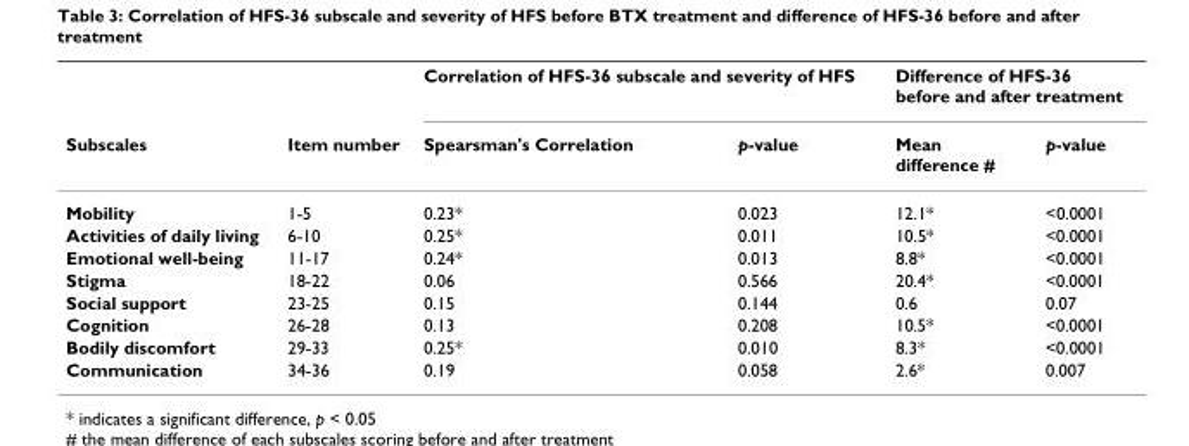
<table><thead><tr><td rowspan="2">Subscales</td><td rowspan="2">Item number</td><td colspan="2">Correlation of HFS-36 subscale and severity of HFS</td><td colspan="2">Difference of HFS-36 before and after treatment</td></tr><tr><td>Spearsman&#x27;s Correlation</td><td>p-value</td><td>Mean difference #</td><td>p-value</td></tr></thead><tbody><tr><td>Mobility</td><td>1-5</td><td>0.23*</td><td>0.023</td><td>12.1*</td><td>&lt;0.0001</td></tr><tr><td>Activities of daily living</td><td>6-10</td><td>0.25*</td><td>0.011</td><td>10.5*</td><td>&lt;0.0001</td></tr><tr><td>Emotional well-being</td><td>11-17</td><td>0.24*</td><td>0.013</td><td>8.8*</td><td>&lt;0.0001</td></tr><tr><td>Stigma</td><td>18-22</td><td>0.06</td><td>0.566</td><td>20.4*</td><td>&lt;0.0001</td></tr><tr><td>Social support</td><td>23-25</td><td>0.15</td><td>0.144</td><td>0.6</td><td>0.07</td></tr><tr><td>Cognition</td><td>26-28</td><td>0.13</td><td>0.208</td><td>10.5*</td><td>&lt;0.0001</td></tr><tr><td>Bodily discomfort</td><td>29-33</td><td>0.25*</td><td>0.010</td><td>8.3*</td><td>&lt;0.0001</td></tr><tr><td>Communication</td><td>34-36</td><td>0.19</td><td>0.058</td><td>2.6*</td><td>0.007</td></tr></tbody></table>